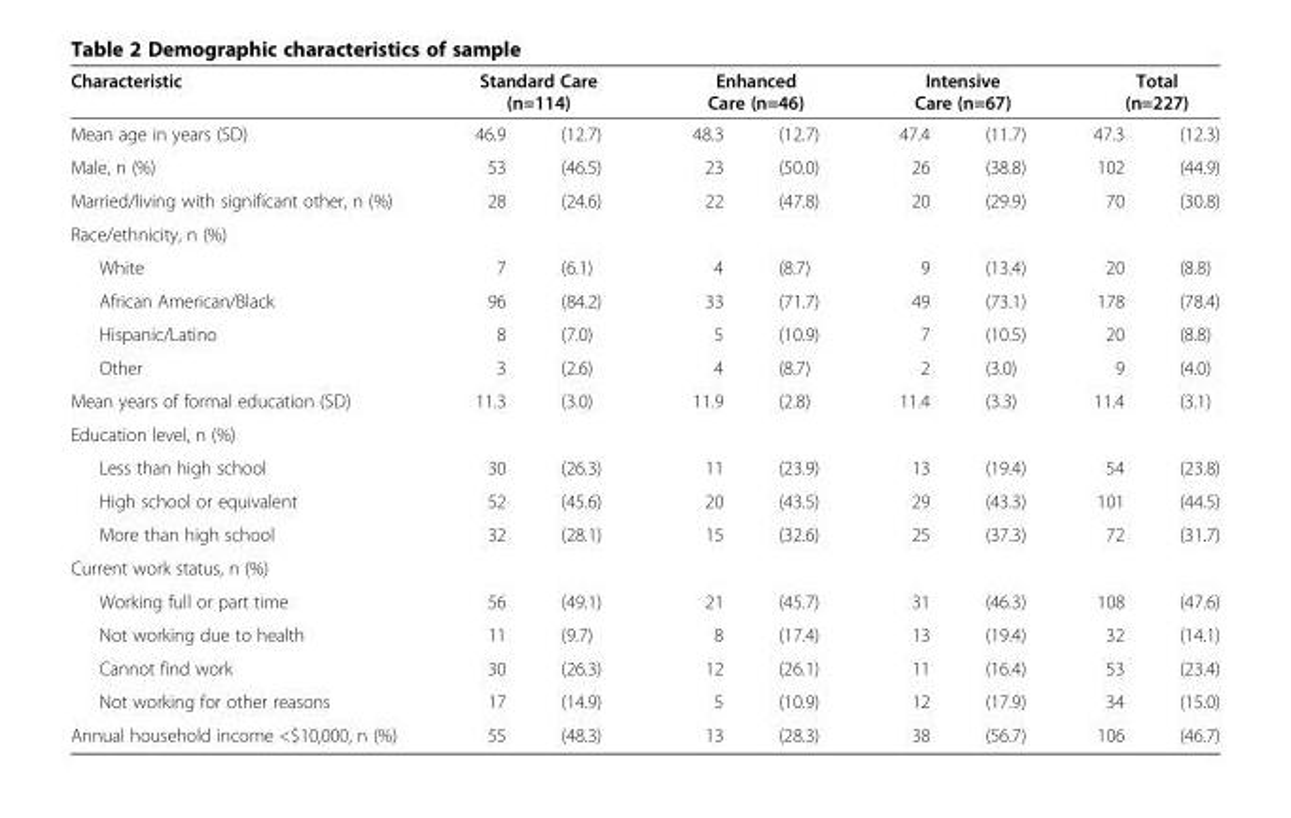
<table><thead><tr><td rowspan="2">Characteristic Mean age in years (SD)</td><td colspan="2">Standard Care (n=114)</td><td colspan="2">Enhanced Care (n=46)</td><td colspan="2">Intensive Care (n=67)</td><td colspan="2">Total (n=227)</td></tr><tr><td>46.9</td><td>(12.7)</td><td>48.3</td><td>(12.7)</td><td>47.4</td><td>(11.7)</td><td>47.3</td><td>(12.3)</td></tr></thead><tbody><tr><td>Male, n (%)</td><td>53</td><td>(46.5)</td><td>23</td><td>(50.0)</td><td>26</td><td>(38.8)</td><td>102</td><td>(44.9)</td></tr><tr><td>Married/living with significant other, n (%)</td><td>28</td><td>(24.6)</td><td>22</td><td>(47.8)</td><td>20</td><td>(29.9)</td><td>70</td><td>(30.8)</td></tr><tr><td colspan="9">Race/ethnicity, n (%)</td></tr><tr><td>White</td><td>7</td><td>(6.1)</td><td>4</td><td>(8.7)</td><td>9</td><td>(13.4)</td><td>20</td><td>(8.8)</td></tr><tr><td>African American/Black</td><td>96</td><td>(84.2)</td><td>33</td><td>(71.7)</td><td>49</td><td>(73.1)</td><td>178</td><td>(78.4)</td></tr><tr><td>Hispanic/Latino</td><td>8</td><td>(7.0)</td><td>5</td><td>(10.9)</td><td>7</td><td>(10.5)</td><td>20</td><td>(8.8)</td></tr><tr><td>Other</td><td>3</td><td>(2.6)</td><td>4</td><td>(8.7)</td><td>2</td><td>(3.0)</td><td>9</td><td>(4.0)</td></tr><tr><td>Mean years of formal education (SD)</td><td>11.3</td><td>(3.0)</td><td>11.9</td><td>(2.8)</td><td>11.4</td><td>(3.3)</td><td>11.4</td><td>(3.1)</td></tr><tr><td colspan="9">Education level, n (%)</td></tr><tr><td>Less than high school</td><td>30</td><td>(26.3)</td><td>11</td><td>(23.9)</td><td>13</td><td>(19.4)</td><td>54</td><td>(23.8)</td></tr><tr><td>High school or equivalent</td><td>52</td><td>(45.6)</td><td>20</td><td>(43.5)</td><td>29</td><td>(43.3)</td><td>101</td><td>(44.5)</td></tr><tr><td>More than high school</td><td>32</td><td>(28.1)</td><td>15</td><td>(32.6)</td><td>25</td><td>(37.3)</td><td>72</td><td>(31.7)</td></tr><tr><td colspan="9">Current work status, n (%)</td></tr><tr><td>Working full or part time</td><td>56</td><td>(49.1)</td><td>21</td><td>(45.7)</td><td>31</td><td>(46.3)</td><td>108</td><td>(47.6)</td></tr><tr><td>Not working due to health</td><td>11</td><td>(9.7)</td><td>8</td><td>(17.4)</td><td>13</td><td>(19.4)</td><td>32</td><td>(14.1)</td></tr><tr><td>Cannot find work</td><td>30</td><td>(26.3)</td><td>12</td><td>(26.1)</td><td>11</td><td>(16.4)</td><td>53</td><td>(23.4)</td></tr><tr><td>Not working for other reasons</td><td>17</td><td>(14.9)</td><td>5</td><td>(10.9)</td><td>12</td><td>(17.9)</td><td>34</td><td>(15.0)</td></tr><tr><td>Annual household income &lt;$10,000, n (%)</td><td>55</td><td>(48.3)</td><td>13</td><td>(28.3)</td><td>38</td><td>(56.7)</td><td>106</td><td>(46.7)</td></tr></tbody></table>